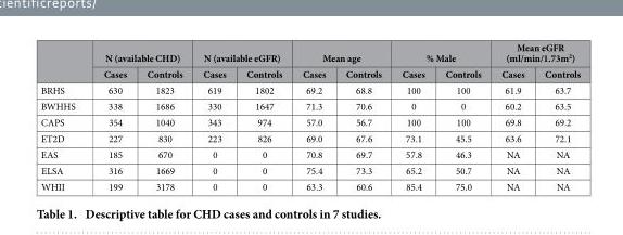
<table><thead><tr><td rowspan="2"></td><td colspan="2">N (available CHD)</td><td colspan="2">N (available eGFR)</td><td colspan="2">Mean age</td><td colspan="2">% Male</td><td colspan="2">Mean eGFR (ml/min/1.73m<sup>2</sup>)</td></tr><tr><td>Cases</td><td>Controls</td><td>Cases</td><td>Controls</td><td>Cases</td><td>Controls</td><td>Cases</td><td>Controls</td><td>Cases</td><td>Controls</td></tr></thead><tbody><tr><td>BRHS</td><td>630</td><td>1823</td><td>619</td><td>1802</td><td>69.2</td><td>68.8</td><td>100</td><td>100</td><td>61.9</td><td>63.7</td></tr><tr><td>BWHHS</td><td>338</td><td>1686</td><td>330</td><td>1647</td><td>71.3</td><td>70.6</td><td>0</td><td>0</td><td>60.2</td><td>63.5</td></tr><tr><td>CAPS</td><td>354</td><td>1040</td><td>343</td><td>974</td><td>57.0</td><td>56.7</td><td>100</td><td>100</td><td>69.8</td><td>69.2</td></tr><tr><td>ET2D</td><td>227</td><td>830</td><td>223</td><td>826</td><td>69.0</td><td>67.6</td><td>73.1</td><td>45.5</td><td>63.6</td><td>72.1</td></tr><tr><td>EAS</td><td>185</td><td>670</td><td>0</td><td>0</td><td>70.8</td><td>69.7</td><td>57.8</td><td>46.3</td><td>NA</td><td>NA</td></tr><tr><td>ELSA</td><td>316</td><td>1669</td><td>0</td><td>0</td><td>75.4</td><td>73.3</td><td>65.2</td><td>50.7</td><td>NA</td><td>NA</td></tr><tr><td>WHII</td><td>199</td><td>3178</td><td>0</td><td>0</td><td>63.3</td><td>60.6</td><td>85.4</td><td>75.0</td><td>NA</td><td>NA</td></tr></tbody></table>